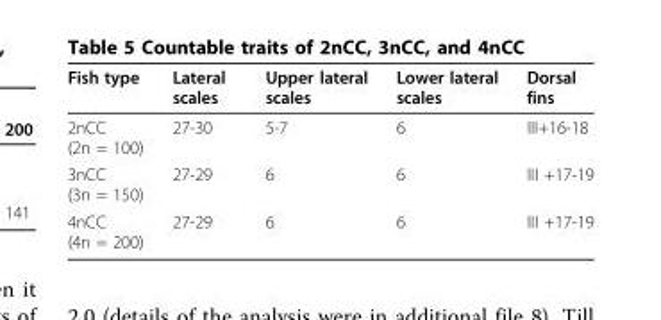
<table><thead><tr><td>Fish type</td><td>Lateral scales</td><td>Upper lateral scales</td><td>Lower lateral scales</td><td>Dorsal fins</td></tr></thead><tbody><tr><td>2nCC (2n = 100)</td><td>27-30</td><td>5-7</td><td>6</td><td>III+16-18</td></tr><tr><td>3nCC (3n = 150)</td><td>27-29</td><td>6</td><td>6</td><td>III +17-19</td></tr><tr><td>4nCC (4n = 200)</td><td>27-29</td><td>6</td><td>6</td><td>III +17-19</td></tr></tbody></table>